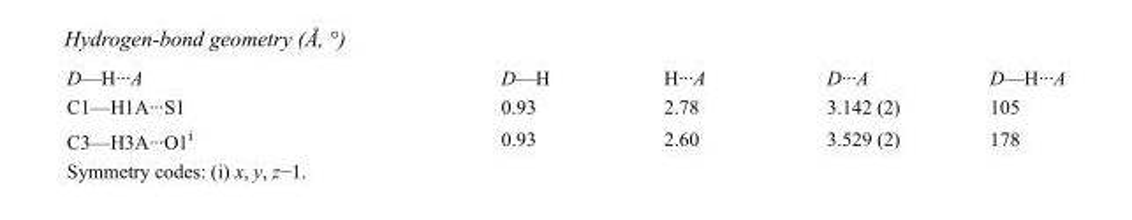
<table><tbody><tr><td>D—H···A</td><td>D—H</td><td>H···A</td><td>D···A</td><td>D—H···A</td></tr><tr><td>C1—H1A···S1</td><td>0.93</td><td>2.78</td><td>3.142 (2)</td><td>105</td></tr><tr><td>C3—H3A···O1<sup>i</sup></td><td>0.93</td><td>2.60</td><td>3.529 (2)</td><td>178</td></tr></tbody></table>